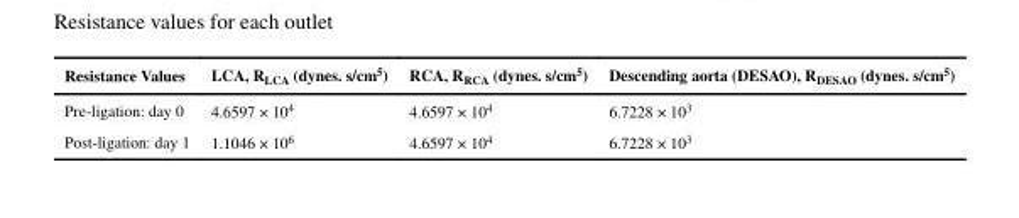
<table><thead><tr><td>Resistance Values</td><td>LCA, R<sub>LCA</sub> (dynes. s/cm<sup>5</sup>)</td><td>RCA, R<sub>RCA</sub> (dynes. s/cm<sup>5</sup>)</td><td>Descending aorta (DESAO), R<sub>DESAO</sub> (dynes. s/cm<sup>5</sup>)</td></tr></thead><tbody><tr><td>Pre-ligation: day 0</td><td>4.6597 × 10<sup>4</sup></td><td>4.6597 × 10<sup>4</sup></td><td>6.7228 × 10<sup>3</sup></td></tr><tr><td>Post-ligation: day 1</td><td>1.1046 × 10<sup>6</sup></td><td>4.6597 × 10<sup>4</sup></td><td>6.7228 × 10<sup>3</sup></td></tr></tbody></table>